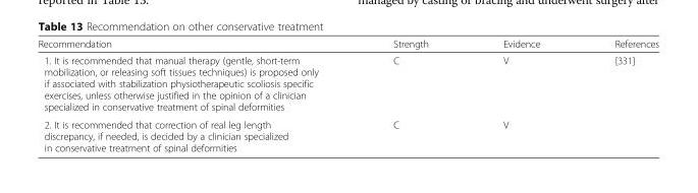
<table><thead><tr><td>Recommendation</td><td>Strength</td><td>Evidence</td><td>References</td></tr></thead><tbody><tr><td>1. It is recommended that manual therapy (gentle, short-term mobilization, or releasing soft tissues techniques) is proposed only if associated with stabilization physiotherapeutic scoliosis specific exercises, unless otherwise justified in the opinion of a clinician specialized in conservative treatment of spinal deformities</td><td>C</td><td>V</td><td>[331]</td></tr><tr><td>2. It is recommended that correction of real leg length discrepancy, if needed, is decided by a clinician specialized in conservative treatment of spinal deformities</td><td>C</td><td>V</td><td></td></tr></tbody></table>